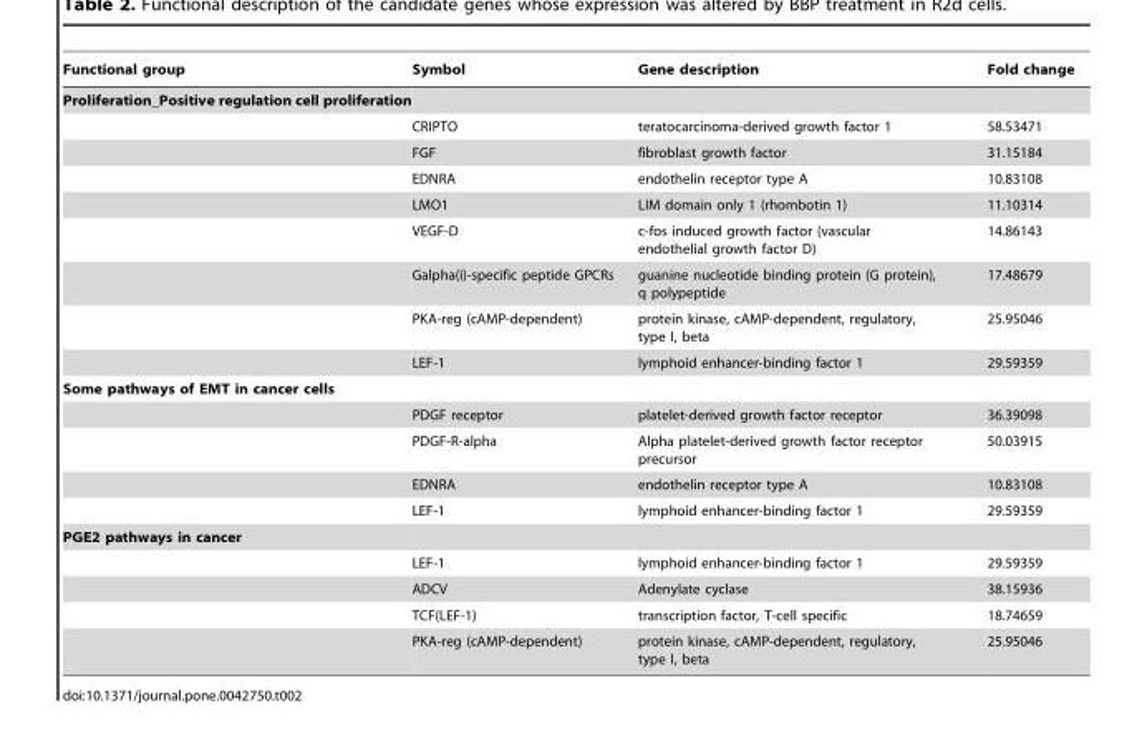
<table><thead><tr><td>Functional group</td><td>Symbol</td><td>Gene description</td><td>Fold change</td></tr></thead><tbody><tr><td colspan="4">Proliferation_Positive regulation cell proliferation</td></tr><tr><td></td><td>CRIPTO</td><td>teratocarcinoma-derived growth factor 1</td><td>58.53471</td></tr><tr><td></td><td>FGF</td><td>fibroblast growth factor</td><td>31.15184</td></tr><tr><td></td><td>EDNRA</td><td>endothelin receptor type A</td><td>10.83108</td></tr><tr><td></td><td>LMO1</td><td>LIM domain only 1 (rhombotin 1)</td><td>11.10314</td></tr><tr><td></td><td>VEGF-D</td><td>c-fos induced growth factor (vascular endothelial growth factor D)</td><td>14.86143</td></tr><tr><td></td><td>Galpha(i)-specific peptide GPCRs</td><td>guanine nucleotide binding protein (G protein), q polypeptide</td><td>17.48679</td></tr><tr><td></td><td>PKA-reg (cAMP-dependent)</td><td>protein kinase, cAMP-dependent, regulatory, type I, beta</td><td>25.95046</td></tr><tr><td></td><td>LEF-1</td><td>lymphoid enhancer-binding factor 1</td><td>29.59359</td></tr><tr><td colspan="4">Some pathways of EMT in cancer cells</td></tr><tr><td></td><td>PDGF receptor</td><td>platelet-derived growth factor receptor</td><td>36.39098</td></tr><tr><td></td><td>PDGF-R-alpha</td><td>Alpha platelet-derived growth factor receptor precursor</td><td>50.03915</td></tr><tr><td></td><td>EDNRA</td><td>endothelin receptor type A</td><td>10.83108</td></tr><tr><td></td><td>LEF-1</td><td>lymphoid enhancer-binding factor 1</td><td>29.59359</td></tr><tr><td colspan="4">PGE2 pathways in cancer</td></tr><tr><td></td><td>LEF-1</td><td>lymphoid enhancer-binding factor 1</td><td>29.59359</td></tr><tr><td></td><td>ADCV</td><td>Adenylate cyclase</td><td>38.15936</td></tr><tr><td></td><td>TCF(LEF-1)</td><td>transcription factor, T-cell specific</td><td>18.74659</td></tr><tr><td></td><td>PKA-reg (cAMP-dependent)</td><td>protein kinase, cAMP-dependent, regulatory, type I, beta</td><td>25.95046</td></tr></tbody></table>